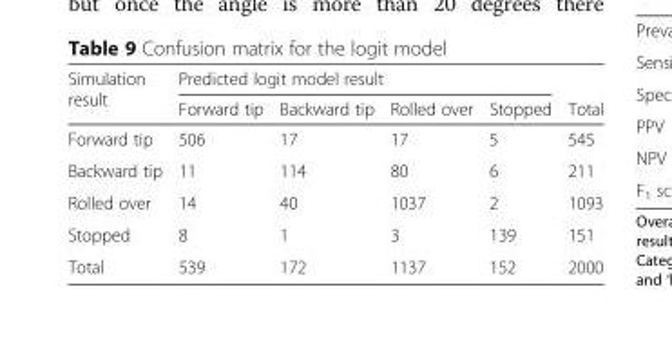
<table><thead><tr><td rowspan="2">Simulation result</td><td colspan="4">Predicted logit model result</td><td rowspan="2">Total</td></tr><tr><td>Forward tip</td><td>Backward tip</td><td>Rolled over</td><td>Stopped</td></tr></thead><tbody><tr><td>Forward tip</td><td>506</td><td>17</td><td>17</td><td>5</td><td>545</td></tr><tr><td>Backward tip</td><td>11</td><td>114</td><td>80</td><td>6</td><td>211</td></tr><tr><td>Rolled over</td><td>14</td><td>40</td><td>1037</td><td>2</td><td>1093</td></tr><tr><td>Stopped</td><td>8</td><td>1</td><td>3</td><td>139</td><td>151</td></tr><tr><td>Total</td><td>539</td><td>172</td><td>1137</td><td>152</td><td>2000</td></tr></tbody></table>